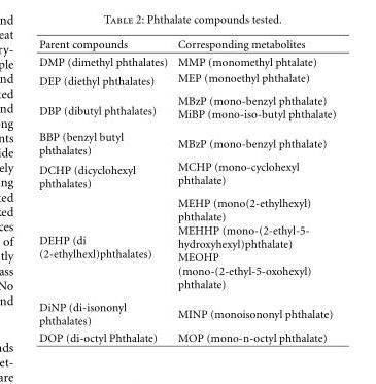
<table><thead><tr><td>Parent compounds</td><td>Corresponding metabolites</td></tr></thead><tbody><tr><td>DMP (dimethyl phthalates)</td><td>MMP (monomethyl phtalate)</td></tr><tr><td>DEP (diethyl phthalates)</td><td>MEP (monoethyl phthalate)</td></tr><tr><td>DBP (dibutyl phthalates)</td><td>MBzP (mono-benzyl phthalate) MiBP (mono-iso-butyl phthalate)</td></tr><tr><td>BBP (benzyl butyl phthalates)</td><td>MBzP (mono-benzyl phthalate)</td></tr><tr><td>DCHP (dicyclohexyl phthalates)</td><td>MCHP (mono-cyclohexyl phthalate)</td></tr><tr><td>DEHP (di (2-ethylhexl)phthalates)</td><td>MEHP (mono(2-ethylhexyl) phthalate) MEHHP (mono-(2-ethyl-5- hydroxyhexyl)phthalate) MEOHP (mono-(2-ethyl-5-oxohexyl) phthalate)</td></tr><tr><td>DiNP (di-isononyl phthalates)</td><td>MINP (monoisononyl phthalate)</td></tr><tr><td>DOP (di-octyl Phthalate)</td><td>MOP (mono-n-octyl phthalate)</td></tr></tbody></table>